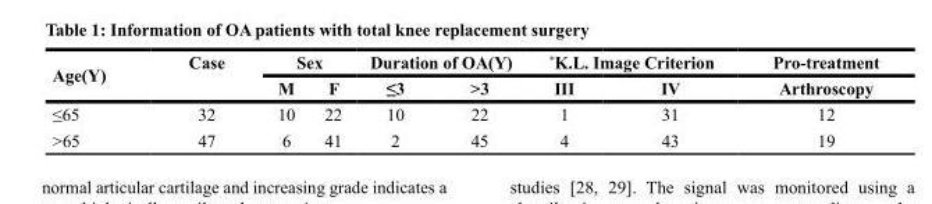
<table><thead><tr><td rowspan="2">Age(Y)</td><td rowspan="2">Case</td><td colspan="2">Sex</td><td colspan="2">Duration of OA(Y)</td><td colspan="2">*K.L. Image Criterion</td><td rowspan="2">Pro-treatment Arthroscopy</td></tr><tr><td>M</td><td>F</td><td>≤3</td><td>&gt;3</td><td>III</td><td>IV</td></tr></thead><tbody><tr><td>≤65</td><td>32</td><td>10</td><td>22</td><td>10</td><td>22</td><td>1</td><td>31</td><td>12</td></tr><tr><td>&gt;65</td><td>47</td><td>6</td><td>41</td><td>2</td><td>45</td><td>4</td><td>43</td><td>19</td></tr></tbody></table>